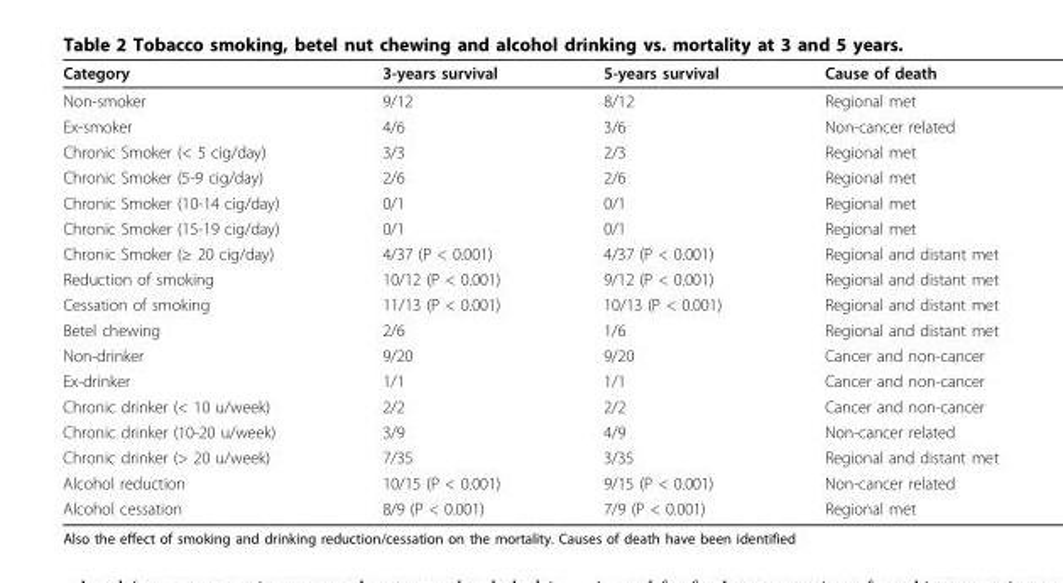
<table><thead><tr><td>Category</td><td>3-years survival</td><td>5-years survival</td><td>Cause of death</td></tr></thead><tbody><tr><td>Non-smoker</td><td>9/12</td><td>8/12</td><td>Regional met</td></tr><tr><td>Ex-smoker</td><td>4/6</td><td>3/6</td><td>Non-cancer related</td></tr><tr><td>Chronic Smoker (&lt; 5 cig/day)</td><td>3/3</td><td>2/3</td><td>Regional met</td></tr><tr><td>Chronic Smoker (5-9 cig/day)</td><td>2/6</td><td>2/6</td><td>Regional met</td></tr><tr><td>Chronic Smoker (10-14 cig/day)</td><td>0/1</td><td>0/1</td><td>Regional met</td></tr><tr><td>Chronic Smoker (15-19 cig/day)</td><td>0/1</td><td>0/1</td><td>Regional met</td></tr><tr><td>Chronic Smoker (≥ 20 cig/day)</td><td>4/37 (P &lt; 0.001)</td><td>4/37 (P &lt; 0.001)</td><td>Regional and distant met</td></tr><tr><td>Reduction of smoking</td><td>10/12 (P &lt; 0.001)</td><td>9/12 (P &lt; 0.001)</td><td>Regional and distant met</td></tr><tr><td>Cessation of smoking</td><td>11/13 (P &lt; 0.001)</td><td>10/13 (P &lt; 0.001)</td><td>Regional and distant met</td></tr><tr><td>Betel chewing</td><td>2/6</td><td>1/6</td><td>Regional and distant met</td></tr><tr><td>Non-drinker</td><td>9/20</td><td>9/20</td><td>Cancer and non-cancer</td></tr><tr><td>Ex-drinker</td><td>1/1</td><td>1/1</td><td>Cancer and non-cancer</td></tr><tr><td>Chronic drinker (&lt; 10 u/week)</td><td>2/2</td><td>2/2</td><td>Cancer and non-cancer</td></tr><tr><td>Chronic drinker (10-20 u/week)</td><td>3/9</td><td>4/9</td><td>Non-cancer related</td></tr><tr><td>Chronic drinker (&gt; 20 u/week)</td><td>7/35</td><td>3/35</td><td>Regional and distant met</td></tr><tr><td>Alcohol reduction</td><td>10/15 (P &lt; 0.001)</td><td>9/15 (P &lt; 0.001)</td><td>Non-cancer related</td></tr><tr><td>Alcohol cessation</td><td>8/9 (P &lt; 0.001)</td><td>7/9 (P &lt; 0.001)</td><td>Regional met</td></tr></tbody></table>